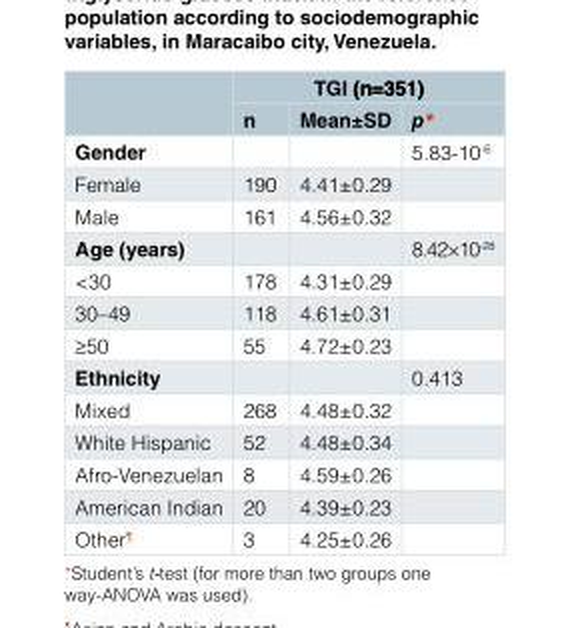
<table><thead><tr><td rowspan="2"></td><td colspan="3">TGI (n=351) (n=351)</td></tr><tr><td>n</td><td>Mean±SD</td><td>p*</td></tr></thead><tbody><tr><td>Gender</td><td></td><td></td><td>5.83-10<sup>-6</sup></td></tr><tr><td>Female</td><td>190</td><td>4.41±0.29</td><td></td></tr><tr><td>Male</td><td>161</td><td>4.56±0.32</td><td></td></tr><tr><td>Age (years)</td><td></td><td></td><td>8.42×10<sup>-28</sup></td></tr><tr><td>&lt;30</td><td>178</td><td>4.31±0.29</td><td></td></tr><tr><td>30–49</td><td>118</td><td>4.61±0.31</td><td></td></tr><tr><td>≥50</td><td>55</td><td>4.72±0.23</td><td></td></tr><tr><td>Ethnicity</td><td></td><td></td><td>0.413</td></tr><tr><td>Mixed</td><td>268</td><td>4.48±0.32</td><td></td></tr><tr><td>White Hispanic</td><td>52</td><td>4.48±0.34</td><td></td></tr><tr><td>Afro-Venezuelan</td><td>8</td><td>4.59±0.26</td><td></td></tr><tr><td>American Indian</td><td>20</td><td>4.39±0.23</td><td></td></tr><tr><td>Other<sup>¶</sup></td><td>3</td><td>4.25±0.26</td><td></td></tr></tbody></table>